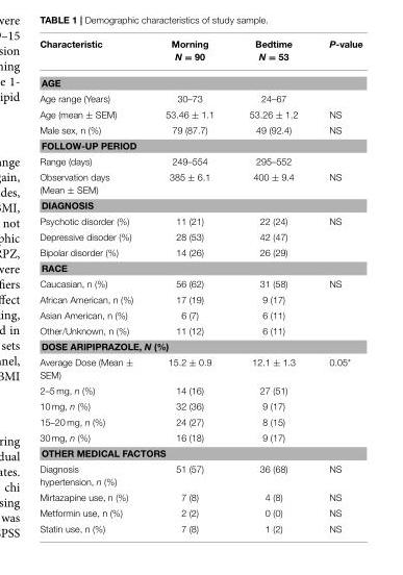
<table><thead><tr><td>Characteristic</td><td>Morning N = 90</td><td>Bedtime N = 53</td><td>P-value</td></tr></thead><tbody><tr><td colspan="4">AGE</td></tr><tr><td>Age range (Years)</td><td>30–73</td><td>24–67</td><td></td></tr><tr><td>Age (mean ± SEM)</td><td>53.46 ± 1.1</td><td>53.26 ± 1.2</td><td>NS</td></tr><tr><td>Male sex, n (%)</td><td>79 (87.7)</td><td>49 (92.4)</td><td>NS</td></tr><tr><td colspan="4">FOLLOW-UP PERIOD</td></tr><tr><td>Range (days)</td><td>249–554</td><td>295–552</td><td></td></tr><tr><td>Observation days (Mean ± SEM)</td><td>385 ± 6.1</td><td>400 ± 9.4</td><td>NS</td></tr><tr><td colspan="4">DIAGNOSIS</td></tr><tr><td>Psychotic disorder (%)</td><td>11 (21)</td><td>22 (24)</td><td>NS</td></tr><tr><td>Depressive disoder (%)</td><td>28 (53)</td><td>42 (47)</td><td></td></tr><tr><td>Bipolar disorder (%)</td><td>14 (26)</td><td>26 (29)</td><td></td></tr><tr><td colspan="4">RACE</td></tr><tr><td>Caucasian, n (%)</td><td>56 (62)</td><td>31 (58)</td><td>NS</td></tr><tr><td>African American, n (%)</td><td>17 (19)</td><td>9 (17)</td><td></td></tr><tr><td>Asian American, n (%)</td><td>6 (7)</td><td>6 (11)</td><td></td></tr><tr><td>Other/Unknown, n (%)</td><td>11 (12)</td><td>6 (11)</td><td></td></tr><tr><td colspan="4">DOSE ARIPIPRAZOLE, N (%)</td></tr><tr><td>Average Dose (Mean ± SEM)</td><td>15.2 ± 0.9</td><td>12.1 ± 1.3</td><td>0.05*</td></tr><tr><td>2–5 mg, n (%)</td><td>14 (16)</td><td>27 (51)</td><td></td></tr><tr><td>10 mg, n (%)</td><td>32 (36)</td><td>9 (17)</td><td></td></tr><tr><td>15–20 mg, n (%)</td><td>24 (27)</td><td>8 (15)</td><td></td></tr><tr><td>30 mg, n (%)</td><td>16 (18)</td><td>9 (17)</td><td></td></tr><tr><td colspan="4">OTHER MEDICAL FACTORS</td></tr><tr><td>Diagnosis hypertension, n (%)</td><td>51 (57)</td><td>36 (68)</td><td>NS</td></tr><tr><td>Mirtazapine use, n (%)</td><td>7 (8)</td><td>4 (8)</td><td>NS</td></tr><tr><td>Metformin use, n (%)</td><td>2 (2)</td><td>0 (0)</td><td>NS</td></tr><tr><td>Statin use, n (%)</td><td>7 (8)</td><td>1 (2)</td><td>NS</td></tr></tbody></table>